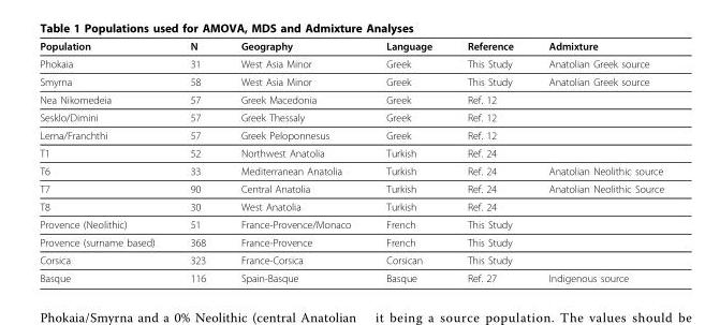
<table><thead><tr><td>Population</td><td>N</td><td>Geography</td><td>Language</td><td>Reference</td><td>Admixture</td></tr></thead><tbody><tr><td>Phokaia</td><td>31</td><td>West Asia Minor</td><td>Greek</td><td>This Study</td><td>Anatolian Greek source</td></tr><tr><td>Smyrna</td><td>58</td><td>West Asia Minor</td><td>Greek</td><td>This Study</td><td>Anatolian Greek source</td></tr><tr><td>Nea Nikomedeia</td><td>57</td><td>Greek Macedonia</td><td>Greek</td><td>Ref. 12</td><td></td></tr><tr><td>Sesklo/Dimini</td><td>57</td><td>Greek Thessaly</td><td>Greek</td><td>Ref. 12</td><td></td></tr><tr><td>Lerna/Franchthi</td><td>57</td><td>Greek Peloponnesus</td><td>Greek</td><td>Ref. 12</td><td></td></tr><tr><td>T1</td><td>52</td><td>Northwest Anatolia</td><td>Turkish</td><td>Ref. 24</td><td></td></tr><tr><td>T6</td><td>33</td><td>Mediterranean Anatolia</td><td>Turkish</td><td>Ref. 24</td><td>Anatolian Neolithic source</td></tr><tr><td>T7</td><td>90</td><td>Central Anatolia</td><td>Turkish</td><td>Ref. 24</td><td>Anatolian Neolithic Source</td></tr><tr><td>T8</td><td>30</td><td>West Anatolia</td><td>Turkish</td><td>Ref. 24</td><td></td></tr><tr><td>Provence (Neolithic)</td><td>51</td><td>France-Provence/Monaco</td><td>French</td><td>This Study</td><td></td></tr><tr><td>Provence (surname based)</td><td>368</td><td>France-Provence</td><td>French</td><td>This Study</td><td></td></tr><tr><td>Corsica</td><td>323</td><td>France-Corsica</td><td>Corsican</td><td>This Study</td><td></td></tr><tr><td>Basque</td><td>116</td><td>Spain-Basque</td><td>Basque</td><td>Ref. 27</td><td>Indigenous source</td></tr></tbody></table>